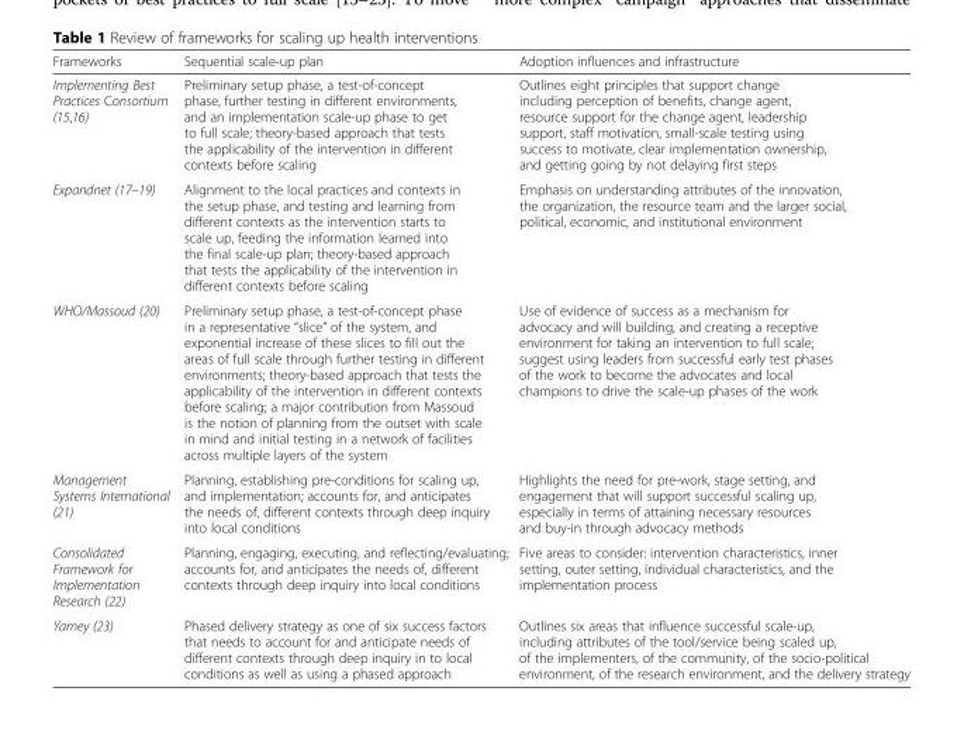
<table><thead><tr><td>Frameworks</td><td>Sequential scale-up plan</td><td>Adoption influences and infrastructure</td></tr></thead><tbody><tr><td>Implementing Best Practices Consortium (15,16)</td><td>Preliminary setup phase, a test-of-concept phase, further testing in different environments, and an implementation scale-up phase to get to full scale; theory-based approach that tests the applicability of the intervention in different contexts before scaling</td><td>Outlines eight principles that support change including perception of benefits, change agent, resource support for the change agent, leadership support, staff motivation, small-scale testing using success to motivate, clear implementation ownership, and getting going by not delaying first steps</td></tr><tr><td>Expandnet (17–19)</td><td>Alignment to the local practices and contexts in the setup phase, and testing and learning from different contexts as the intervention starts to scale up, feeding the information learned into the final scale-up plan; theory-based approach that tests the applicability of the intervention in different contexts before scaling</td><td>Emphasis on understanding attributes of the innovation, the organization, the resource team and the larger social, political, economic, and institutional environment</td></tr><tr><td>WHO/Massoud (20)</td><td>Preliminary setup phase, a test-of-concept phase in a representative “slice” of the system, and exponential increase of these slices to fill out the areas of full scale through further testing in different environments; theory-based approach that tests the applicability of the intervention in different contexts before scaling; a major contribution from Massoud is the notion of planning from the outset with scale in mind and initial testing in a network of facilities across multiple layers of the system</td><td>Use of evidence of success as a mechanism for advocacy and will building, and creating a receptive environment for taking an intervention to full scale; suggest using leaders from successful early test phases of the work to become the advocates and local champions to drive the scale-up phases of the work</td></tr><tr><td>Management Systems International (21)</td><td>Planning, establishing pre-conditions for scaling up, and implementation; accounts for, and anticipates the needs of, different contexts through deep inquiry into local conditions</td><td>Highlights the need for pre-work, stage setting, and engagement that will support successful scaling up, especially in terms of attaining necessary resources and buy-in through advocacy methods</td></tr><tr><td>Consolidated Framework for Implementation Research (22)</td><td>Planning, engaging, executing, and reflecting/evaluating; accounts for, and anticipates the needs of, different contexts through deep inquiry into local conditions</td><td>Five areas to consider: intervention characteristics, inner setting, outer setting, individual characteristics, and the implementation process</td></tr><tr><td>Yamey (23)</td><td>Phased delivery strategy as one of six success factors that needs to account for and anticipate needs of different contexts through deep inquiry in to local conditions as well as using a phased approach</td><td>Outlines six areas that influence successful scale-up, including attributes of the tool/service being scaled up, of the implementers, of the community, of the socio-political environment, of the research environment, and the delivery strategy</td></tr></tbody></table>